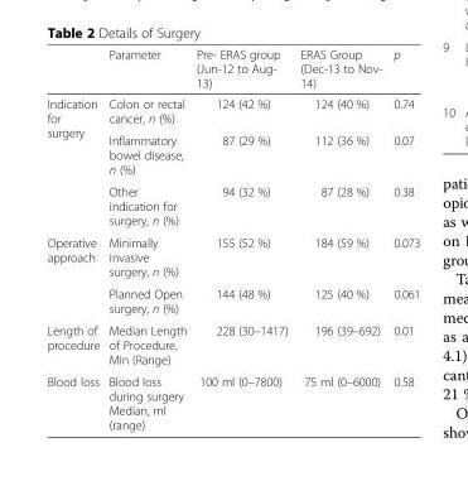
<table><thead><tr><td></td><td>Parameter</td><td>Pre- ERAS group (Jun-12 to Aug- 13)</td><td>ERAS Group (Dec-13 to Nov- 14)</td><td>p</td></tr></thead><tbody><tr><td rowspan="3">Indication for surgery</td><td>Colon or rectal cancer, n (%)</td><td>124 (42 %)</td><td>124 (40 %)</td><td>0.74</td></tr><tr><td>Inflammatory bowel disease, n (%)</td><td>87 (29 %)</td><td>112 (36 %)</td><td>0.07</td></tr><tr><td>Other indication for surgery, n (%)</td><td>94 (32 %)</td><td>87 (28 %)</td><td>0.38</td></tr><tr><td rowspan="2">Operative approach</td><td>Minimally invasive surgery, n (%)</td><td>155 (52 %)</td><td>184 (59 %)</td><td>0.073</td></tr><tr><td>Planned Open surgery, n (%)</td><td>144 (48 %)</td><td>125 (40 %)</td><td>0.061</td></tr><tr><td>Length of procedure</td><td>Median Length of Procedure, Min (Range)</td><td>228 (30–1417)</td><td>196 (39–692)</td><td>0.01</td></tr><tr><td>Blood loss</td><td>Blood loss during surgery Median, ml (range)</td><td>100 ml (0–7800)</td><td>75 ml (0–6000)</td><td>0.58</td></tr></tbody></table>